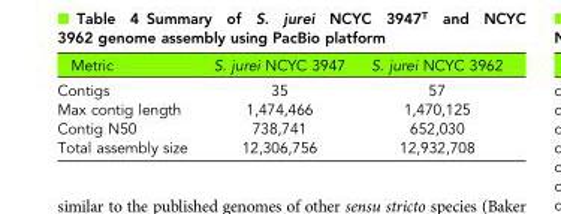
<table><thead><tr><td>Metric</td><td>S. jurei NCYC 3947</td><td>S. jurei NCYC 3962</td></tr></thead><tbody><tr><td>Contigs</td><td>35</td><td>57</td></tr><tr><td>Max contig length</td><td>1,474,466</td><td>1,470,125</td></tr><tr><td>Contig N50</td><td>738,741</td><td>652,030</td></tr><tr><td>Total assembly size</td><td>12,306,756</td><td>12,932,708</td></tr></tbody></table>